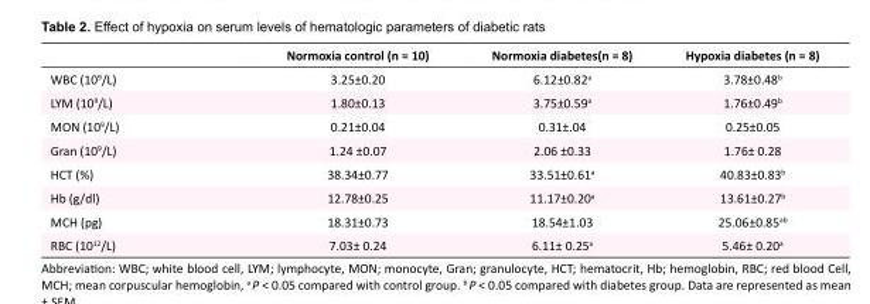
<table><thead><tr><td></td><td>Normoxia control (n = 10)</td><td>Normoxia diabetes(n = 8)</td><td>Hypoxia diabetes (n = 8)</td></tr></thead><tbody><tr><td>WBC (10<sup>9</sup>/L)</td><td>3.25±0.20</td><td>6.12±0.82<sup>a</sup></td><td>3.78±0.48<sup>b</sup></td></tr><tr><td>LYM (10<sup>9</sup>/L)</td><td>1.80±0.13</td><td>3.75±0.59<sup>a</sup></td><td>1.76±0.49<sup>b</sup></td></tr><tr><td>MON (10<sup>9</sup>/L)</td><td>0.21±0.04</td><td>0.31±.04</td><td>0.25±0.05</td></tr><tr><td>Gran (10<sup>9</sup>/L)</td><td>1.24 ±0.07</td><td>2.06 ±0.33</td><td>1.76± 0.28</td></tr><tr><td>HCT (%)</td><td>38.34±0.77</td><td>33.51±0.61<sup>a</sup></td><td>40.83±0.83<sup>b</sup></td></tr><tr><td>Hb (g/dl)</td><td>12.78±0.25</td><td>11.17±0.20<sup>a</sup></td><td>13.61±0.27<sup>b</sup></td></tr><tr><td>MCH (pg)</td><td>18.31±0.73</td><td>18.54±1.03</td><td>25.06±0.85<sup>ab</sup></td></tr><tr><td>RBC (10<sup>12</sup>/L)</td><td>7.03± 0.24</td><td>6.11± 0.25<sup>a</sup></td><td>5.46± 0.20<sup>a</sup></td></tr></tbody></table>